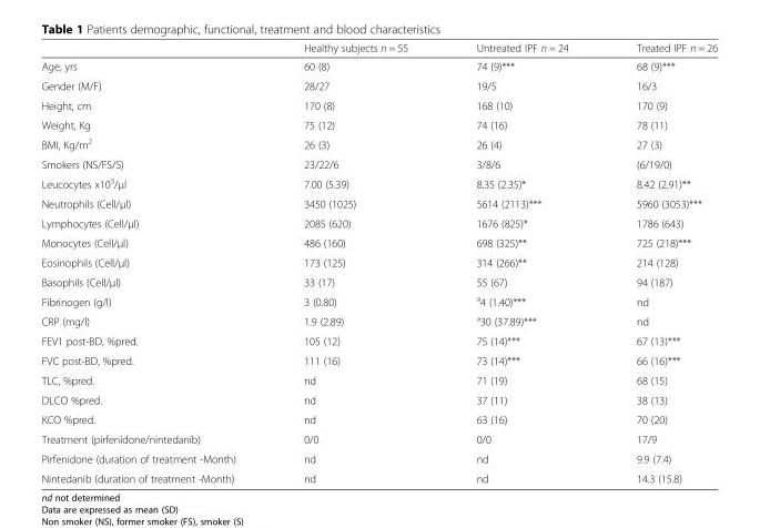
<table><thead><tr><td></td><td>Healthy subjects n = 55</td><td>Untreated IPF n = 24</td><td>Treated IPF n = 26</td></tr></thead><tbody><tr><td>Age, yrs</td><td>60 (8)</td><td>74 (9)***</td><td>68 (9)***</td></tr><tr><td>Gender (M/F)</td><td>28/27</td><td>19/5</td><td>16/3</td></tr><tr><td>Height, cm</td><td>170 (8)</td><td>168 (10)</td><td>170 (9)</td></tr><tr><td>Weight, Kg</td><td>75 (12)</td><td>74 (16)</td><td>78 (11)</td></tr><tr><td>BMI, Kg/m<sup>2</sup></td><td>26 (3)</td><td>26 (4)</td><td>27 (3)</td></tr><tr><td>Smokers (NS/FS/S)</td><td>23/22/6</td><td>3/8/6</td><td>(6/19/0)</td></tr><tr><td>Leucocytes x10<sup>3</sup>/μl</td><td>7.00 (5.39)</td><td>8.35 (2.35)*</td><td>8.42 (2.91)**</td></tr><tr><td>Neutrophils (Cell/μl)</td><td>3450 (1025)</td><td>5614 (2113)***</td><td>5960 (3053)***</td></tr><tr><td>Lymphocytes (Cell/μl)</td><td>2085 (620)</td><td>1676 (825)*</td><td>1786 (643)</td></tr><tr><td>Monocytes (Cell/μl)</td><td>486 (160)</td><td>698 (325)**</td><td>725 (218)***</td></tr><tr><td>Eosinophils (Cell/μl)</td><td>173 (125)</td><td>314 (266)**</td><td>214 (128)</td></tr><tr><td>Basophils (Cell/μl)</td><td>33 (17)</td><td>55 (67)</td><td>94 (187)</td></tr><tr><td>Fibrinogen (g/l)</td><td>3 (0.80)</td><td><sup>a</sup>4 (1.40)***</td><td>nd</td></tr><tr><td>CRP (mg/l)</td><td>1.9 (2.89)</td><td><sup>a</sup>30 (37.89)***</td><td>nd</td></tr><tr><td>FEV1 post-BD, %pred.</td><td>105 (12)</td><td>75 (14)***</td><td>67 (13)***</td></tr><tr><td>FVC post-BD, %pred.</td><td>111 (16)</td><td>73 (14)***</td><td>66 (16)***</td></tr><tr><td>TLC, %pred.</td><td>nd</td><td>71 (19)</td><td>68 (15)</td></tr><tr><td>DLCO %pred.</td><td>nd</td><td>37 (11)</td><td>38 (13)</td></tr><tr><td>KCO %pred.</td><td>nd</td><td>63 (16)</td><td>70 (20)</td></tr><tr><td>Treatment (pirfenidone/nintedanib)</td><td>0/0</td><td>0/0</td><td>17/9</td></tr><tr><td>Pirfenidone (duration of treatment -Month)</td><td>nd</td><td>nd</td><td>9.9 (7.4)</td></tr><tr><td>Nintedanib (duration of treatment -Month)</td><td>nd</td><td>nd</td><td>14.3 (15.8)</td></tr></tbody></table>